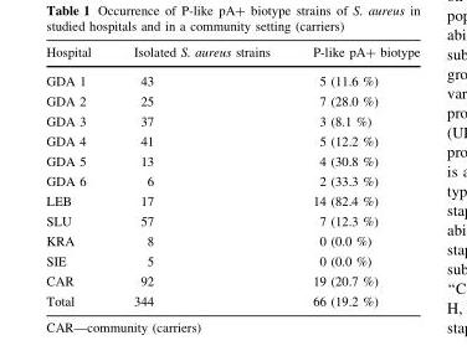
<table><thead><tr><td>Hospital</td><td>Isolated S. aureus strains</td><td>P-like pA+ biotype</td></tr></thead><tbody><tr><td>GDA 1</td><td>43</td><td>5 (11.6 %)</td></tr><tr><td>GDA 2</td><td>25</td><td>7 (28.0 %)</td></tr><tr><td>GDA 3</td><td>37</td><td>3 (8.1 %)</td></tr><tr><td>GDA 4</td><td>41</td><td>5 (12.2 %)</td></tr><tr><td>GDA 5</td><td>13</td><td>4 (30.8 %)</td></tr><tr><td>GDA 6</td><td>6</td><td>2 (33.3 %)</td></tr><tr><td>LEB</td><td>17</td><td>14 (82.4 %)</td></tr><tr><td>SLU</td><td>57</td><td>7 (12.3 %)</td></tr><tr><td>KRA</td><td>8</td><td>0 (0.0 %)</td></tr><tr><td>SIE</td><td>5</td><td>0 (0.0 %)</td></tr><tr><td>CAR</td><td>92</td><td>19 (20.7 %)</td></tr><tr><td>Total</td><td>344</td><td>66 (19.2 %)</td></tr></tbody></table>